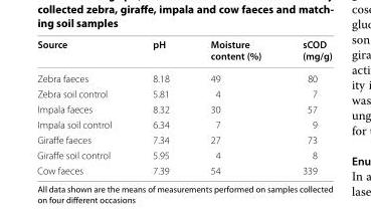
<table><thead><tr><td>Source</td><td>pH</td><td>Moisture content (%)</td><td>sCOD (mg/g)</td></tr></thead><tbody><tr><td>Zebra faeces</td><td>8.18</td><td>49</td><td>80</td></tr><tr><td>Zebra soil control</td><td>5.81</td><td>4</td><td>7</td></tr><tr><td>Impala faeces</td><td>8.32</td><td>30</td><td>57</td></tr><tr><td>Impala soil control</td><td>6.34</td><td>7</td><td>9</td></tr><tr><td>Giraffe faeces</td><td>7.34</td><td>27</td><td>73</td></tr><tr><td>Giraffe soil control</td><td>5.95</td><td>4</td><td>8</td></tr><tr><td>Cow faeces</td><td>7.39</td><td>54</td><td>339</td></tr></tbody></table>